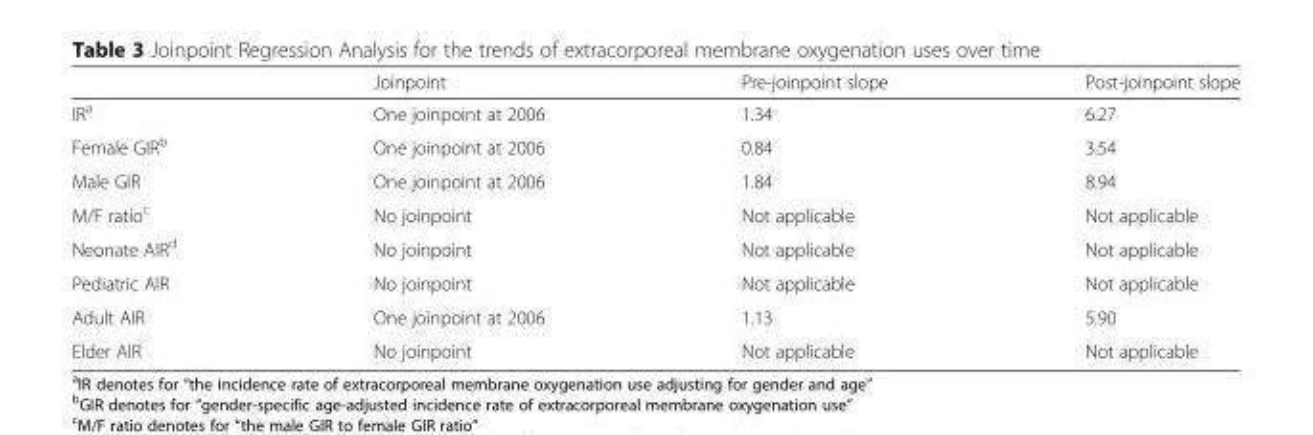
<table><thead><tr><td></td><td>Joinpoint</td><td>Pre-joinpoint slope</td><td>Post-joinpoint slope</td></tr></thead><tbody><tr><td>IR<sup>a</sup></td><td>One joinpoint at 2006</td><td>1.34</td><td>6.27</td></tr><tr><td>Female GIR<sup>b</sup></td><td>One joinpoint at 2006</td><td>0.84</td><td>3.54</td></tr><tr><td>Male GIR</td><td>One joinpoint at 2006</td><td>1.84</td><td>8.94</td></tr><tr><td>M/F ratio<sup>c</sup></td><td>No joinpoint</td><td>Not applicable</td><td>Not applicable</td></tr><tr><td>Neonate AIR<sup>d</sup></td><td>No joinpoint</td><td>Not applicable</td><td>Not applicable</td></tr><tr><td>Pediatric AIR</td><td>No joinpoint</td><td>Not applicable</td><td>Not applicable</td></tr><tr><td>Adult AIR</td><td>One joinpoint at 2006</td><td>1.13</td><td>5.90</td></tr><tr><td>Elder AIR</td><td>No joinpoint</td><td>Not applicable</td><td>Not applicable</td></tr></tbody></table>